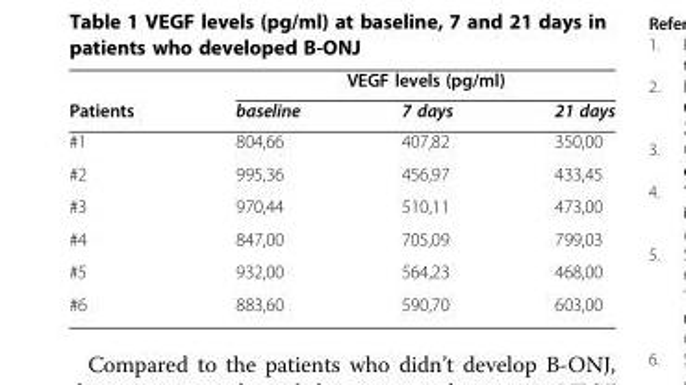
<table><thead><tr><td rowspan="2">Patients</td><td colspan="3">VEGF levels (pg/ml)</td></tr><tr><td>baseline</td><td>7 days</td><td>21 days</td></tr></thead><tbody><tr><td>#1</td><td>804,66</td><td>407,82</td><td>350,00</td></tr><tr><td>#2</td><td>995,36</td><td>456,97</td><td>433,45</td></tr><tr><td>#3</td><td>970,44</td><td>510,11</td><td>473,00</td></tr><tr><td>#4</td><td>847,00</td><td>705,09</td><td>799,03</td></tr><tr><td>#5</td><td>932,00</td><td>564,23</td><td>468,00</td></tr><tr><td>#6</td><td>883,60</td><td>590,70</td><td>603,00</td></tr></tbody></table>